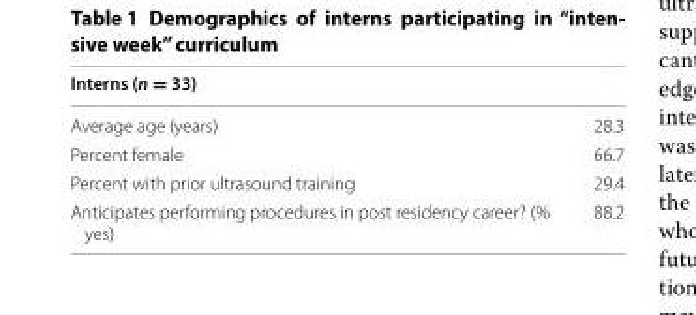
<table><thead><tr><td colspan="2">Interns (n = 33)</td></tr><tr><td>Average age (years)</td><td>28.3</td></tr></thead><tbody><tr><td>Percent female</td><td>66.7</td></tr><tr><td>Percent with prior ultrasound training</td><td>29.4</td></tr><tr><td>Anticipates performing procedures in post residency career? (% yes)</td><td>88.2</td></tr></tbody></table>